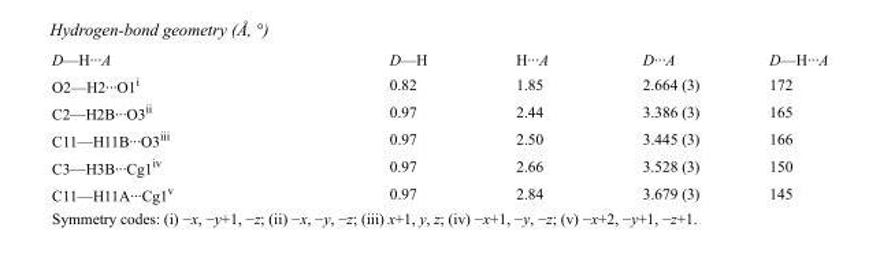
<table><tbody><tr><td>D—H···A</td><td>D—H</td><td>H···A</td><td>D···A</td><td>D—H···A</td></tr><tr><td>O2—H2···O1<sup>i</sup></td><td>0.82</td><td>1.85</td><td>2.664 (3)</td><td>172</td></tr><tr><td>C2—H2B···O3<sup>ii</sup></td><td>0.97</td><td>2.44</td><td>3.386 (3)</td><td>165</td></tr><tr><td>C11—H11B···O3<sup>iii</sup></td><td>0.97</td><td>2.50</td><td>3.445 (3)</td><td>166</td></tr><tr><td>C3—H3B···Cg1<sup>iv</sup></td><td>0.97</td><td>2.66</td><td>3.528 (3)</td><td>150</td></tr><tr><td>C11—H11A···Cg1<sup>v</sup></td><td>0.97</td><td>2.84</td><td>3.679 (3)</td><td>145</td></tr></tbody></table>